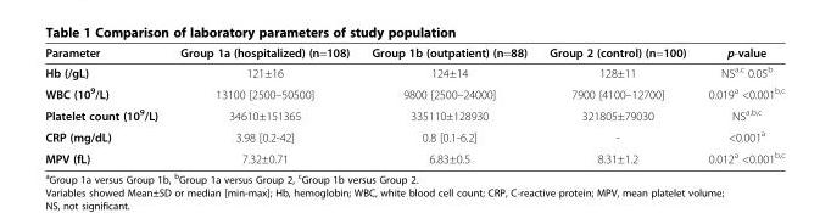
<table><thead><tr><td>Parameter</td><td>Group 1a (hospitalized) (n=108)</td><td>Group 1b (outpatient) (n=88)</td><td>Group 2 (control) (n=100)</td><td>p-value</td></tr></thead><tbody><tr><td>Hb (/gL)</td><td>121±16</td><td>124±14</td><td>128±11</td><td>NS<sup>a,c</sup> 0.05<sup>b</sup></td></tr><tr><td>WBC (10<sup>9</sup>/L)</td><td>13100 [2500–50500]</td><td>9800 [2500–24000]</td><td>7900 [4100–12700]</td><td>0.019<sup>a</sup> &lt;0.001<sup>b,c</sup></td></tr><tr><td>Platelet count (10<sup>9</sup>/L)</td><td>34610±151365</td><td>335110±128930</td><td>321805±79030</td><td>NS<sup>a,b,c</sup></td></tr><tr><td>CRP (mg/dL)</td><td>3.98 [0.2-42]</td><td>0.8 [0.1-6.2]</td><td>-</td><td>&lt;0.001<sup>a</sup></td></tr><tr><td>MPV (fL)</td><td>7.32±0.71</td><td>6.83±0.5</td><td>8.31±1.2</td><td>0.012<sup>a</sup> &lt;0.001<sup>b,c</sup></td></tr></tbody></table>